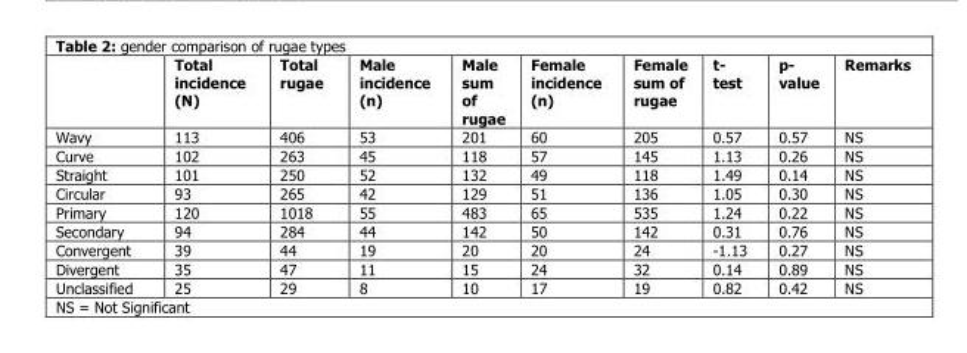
<table><thead><tr><td></td><td>Total incidence (N)</td><td>Total rugae</td><td>Male incidence (n)</td><td>Male sum of rugae</td><td>Female incidence (n)</td><td>Female sum of rugae</td><td>t- test</td><td>p- value</td><td>Remarks</td></tr></thead><tbody><tr><td>Wavy</td><td>113</td><td>406</td><td>53</td><td>201</td><td>60</td><td>205</td><td>0.57</td><td>0.57</td><td>NS</td></tr><tr><td>Curve</td><td>102</td><td>263</td><td>45</td><td>118</td><td>57</td><td>145</td><td>1.13</td><td>0.26</td><td>NS</td></tr><tr><td>Straight</td><td>101</td><td>250</td><td>52</td><td>132</td><td>49</td><td>118</td><td>1.49</td><td>0.14</td><td>NS</td></tr><tr><td>Circular</td><td>93</td><td>265</td><td>42</td><td>129</td><td>51</td><td>136</td><td>1.05</td><td>0.30</td><td>NS</td></tr><tr><td>Primary</td><td>120</td><td>1018</td><td>55</td><td>483</td><td>65</td><td>535</td><td>1.24</td><td>0.22</td><td>NS</td></tr><tr><td>Secondary</td><td>94</td><td>284</td><td>44</td><td>142</td><td>50</td><td>142</td><td>0.31</td><td>0.76</td><td>NS</td></tr><tr><td>Convergent</td><td>39</td><td>44</td><td>19</td><td>20</td><td>20</td><td>24</td><td>-1.13</td><td>0.27</td><td>NS</td></tr><tr><td>Divergent</td><td>35</td><td>47</td><td>11</td><td>15</td><td>24</td><td>32</td><td>0.14</td><td>0.89</td><td>NS</td></tr><tr><td>Unclassified</td><td>25</td><td>29</td><td>8</td><td>10</td><td>17</td><td>19</td><td>0.82</td><td>0.42</td><td>NS</td></tr></tbody></table>